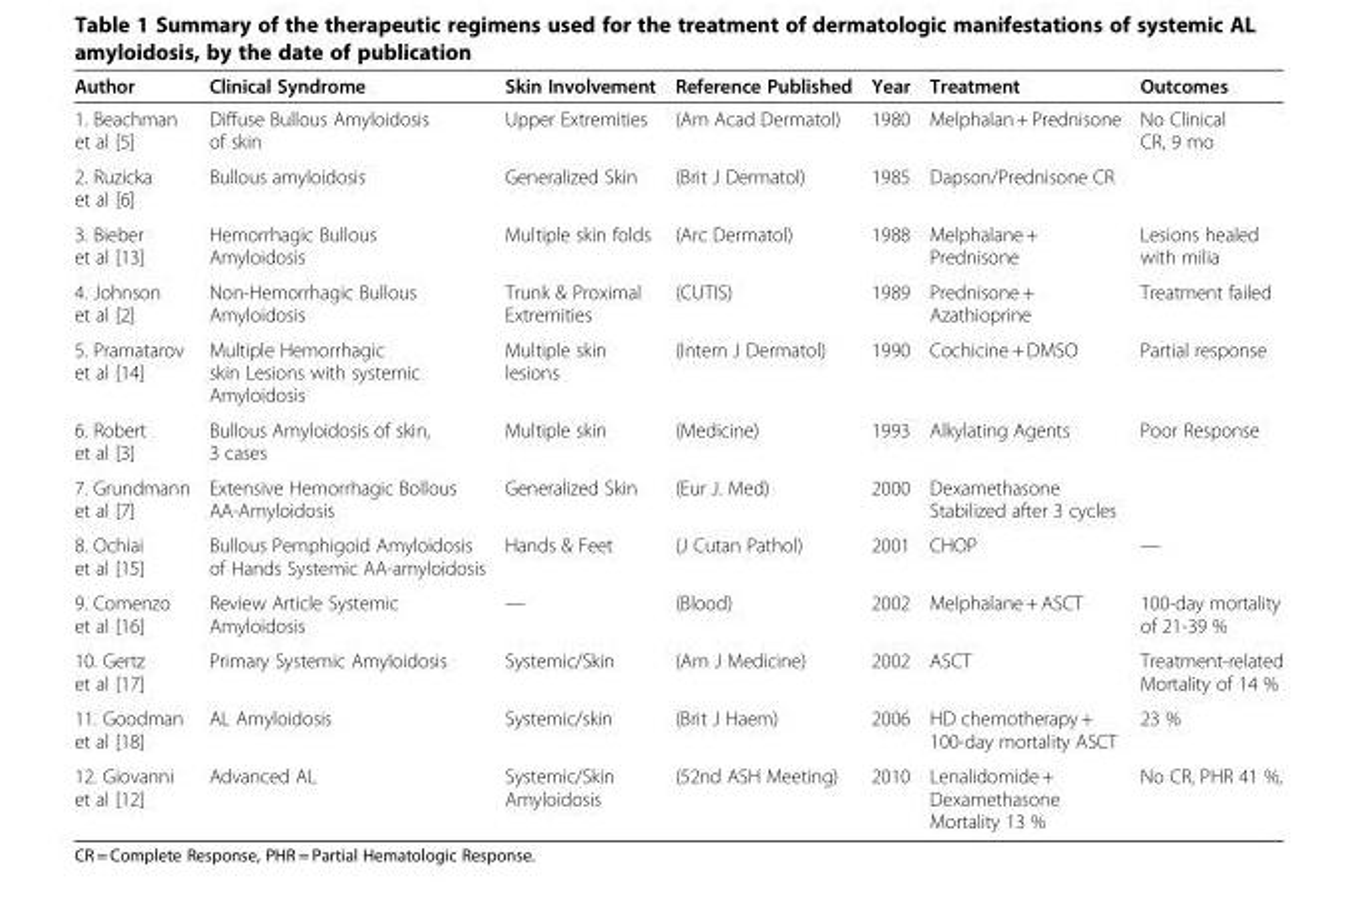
<table><thead><tr><td>Author</td><td>Clinical Syndrome</td><td>Skin Involvement</td><td>Reference Published</td><td>Year</td><td>Treatment</td><td>Outcomes</td></tr></thead><tbody><tr><td>1. Beachman et al [5]</td><td>Diffuse Bullous Amyloidosis of skin</td><td>Upper Extremities</td><td>(Am Acad Dermatol)</td><td>1980</td><td>Melphalan + Prednisone</td><td>No Clinical CR, 9 mo</td></tr><tr><td>2. Ruzicka et al [6]</td><td>Bullous amyloidosis</td><td>Generalized Skin</td><td>(Brit J Dermatol)</td><td>1985</td><td>Dapson/Prednisone CR</td><td></td></tr><tr><td>3. Bieber et al [13]</td><td>Hemorrhagic Bullous Amyloidosis</td><td>Multiple skin folds</td><td>(Arc Dermatol)</td><td>1988</td><td>Melphalane+ Prednisone</td><td>Lesions healed with milia</td></tr><tr><td>4. Johnson et al [2]</td><td>Non-Hemorrhagic Bullous Amyloidosis</td><td>Trunk &amp; Proximal Extremities</td><td>(CUTIS)</td><td>1989</td><td>Prednisone + Azathioprine</td><td>Treatment failed</td></tr><tr><td>5. Pramatarov et al [14]</td><td>Multiple Hemorrhagic skin Lesions with systemic Amyloidosis</td><td>Multiple skin lesions</td><td>(Intern J Dermatol)</td><td>1990</td><td>Cochicine + DMSO</td><td>Partial response</td></tr><tr><td>6. Robert et al [3]</td><td>Bullous Amyloidosis of skin, 3 cases</td><td>Multiple skin</td><td>(Medicine)</td><td>1993</td><td>Alkylating Agents</td><td>Poor Response</td></tr><tr><td>7. Grundmann et al [7]</td><td>Extensive Hemorrhagic Bollous AA-Amyloidosis</td><td>Generalized Skin</td><td>(Eur J. Med)</td><td>2000</td><td>Dexamethasone Stabilized after 3 cycles</td><td></td></tr><tr><td>8. Ochiai et al [15]</td><td>Bullous Pemphigoid Amyloidosis of Hands Systemic AA-amyloidosis</td><td>Hands &amp; Feet</td><td>(J Cutan Pathol)</td><td>2001</td><td>CHOP</td><td>—</td></tr><tr><td>9. Comenzo et al [16]</td><td>Review Article Systemic Amyloidosis</td><td>—</td><td>(Blood)</td><td>2002</td><td>Melphalane+ ASCT</td><td>100-day mortality of 21-39 %</td></tr><tr><td>10. Gertz et al [17]</td><td>Primary Systemic Amyloidosis</td><td>Systemic/Skin</td><td>(Am J Medicine)</td><td>2002</td><td>ASCT</td><td>Treatment-related Mortality of 14 %</td></tr><tr><td>11. Goodman et al [18]</td><td>AL Amyloidosis</td><td>Systemic/skin</td><td>(Brit J Haem)</td><td>2006</td><td>HD chemotherapy + 100-day mortality ASCT</td><td>23 %</td></tr><tr><td>12. Giovanni et al [12]</td><td>Advanced AL</td><td>Systemic/Skin Amyloidosis</td><td>(52nd ASH Meeting)</td><td>2010</td><td>Lenalidomide + Dexamethasone Mortality 13 %</td><td>No CR, PHR 41 %,</td></tr></tbody></table>